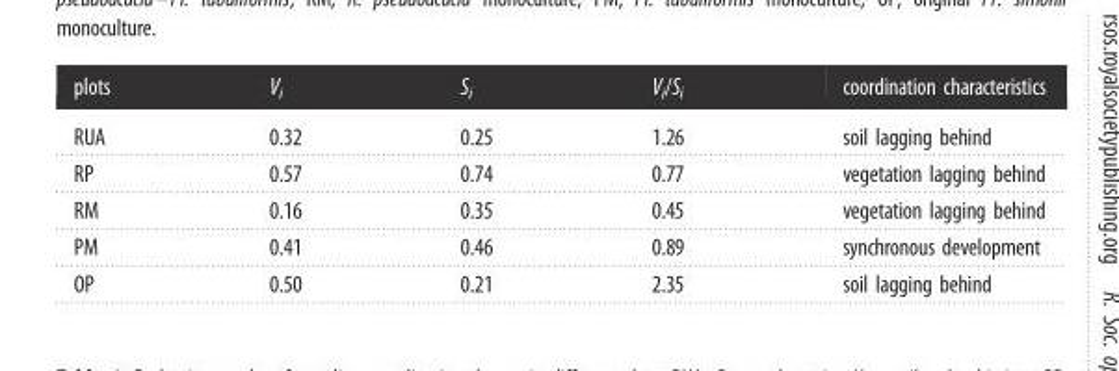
<table><thead><tr><td>plots</td><td>V<sub>i</sub></td><td>S<sub>i</sub></td><td>V<sub>i</sub>/S<sub>i</sub></td><td>coordination characteristics</td></tr></thead><tbody><tr><td>RUA</td><td>0.32</td><td>0.25</td><td>1.26</td><td>soil lagging behind</td></tr><tr><td>RP</td><td>0.57</td><td>0.74</td><td>0.77</td><td>vegetation lagging behind</td></tr><tr><td>RM</td><td>0.16</td><td>0.35</td><td>0.45</td><td>vegetation lagging behind</td></tr><tr><td>PM</td><td>0.41</td><td>0.46</td><td>0.89</td><td>synchronous development</td></tr><tr><td>OP</td><td>0.50</td><td>0.21</td><td>2.35</td><td>soil lagging behind</td></tr></tbody></table>